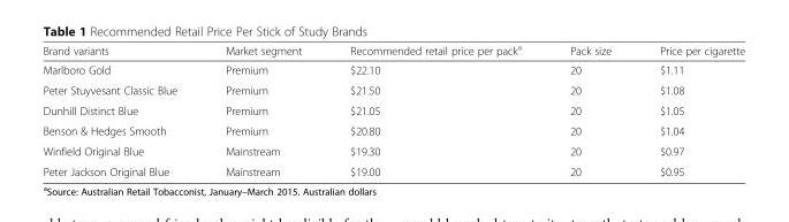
<table><thead><tr><td>Brand variants</td><td>Market segment</td><td>Recommended retail price per pack<sup>a</sup></td><td>Pack size</td><td>Price per cigarette</td></tr></thead><tbody><tr><td>Marlboro Gold</td><td>Premium</td><td>$22.10</td><td>20</td><td>$1.11</td></tr><tr><td>Peter Stuyvesant Classic Blue</td><td>Premium</td><td>$21.50</td><td>20</td><td>$1.08</td></tr><tr><td>Dunhill Distinct Blue</td><td>Premium</td><td>$21.05</td><td>20</td><td>$1.05</td></tr><tr><td>Benson &amp; Hedges Smooth</td><td>Premium</td><td>$20.80</td><td>20</td><td>$1.04</td></tr><tr><td>Winfield Original Blue</td><td>Mainstream</td><td>$19.30</td><td>20</td><td>$0.97</td></tr><tr><td>Peter Jackson Original Blue</td><td>Mainstream</td><td>$19.00</td><td>20</td><td>$0.95</td></tr></tbody></table>